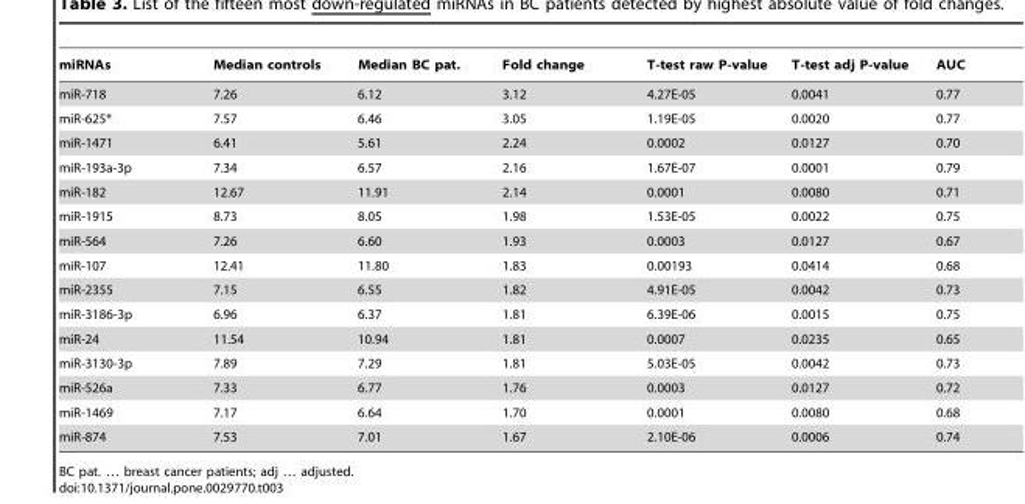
<table><thead><tr><td>miRNAs</td><td>Median controls</td><td>Median BC pat.</td><td>Fold change</td><td>T-test raw P-value</td><td>T-test adj P-value</td><td>AUC</td></tr></thead><tbody><tr><td>miR-718</td><td>7.26</td><td>6.12</td><td>3.12</td><td>4.27E-05</td><td>0.0041</td><td>0.77</td></tr><tr><td>miR-625*</td><td>7.57</td><td>6.46</td><td>3.05</td><td>1.19E-05</td><td>0.0020</td><td>0.77</td></tr><tr><td>miR-1471</td><td>6.41</td><td>5.61</td><td>2.24</td><td>0.0002</td><td>0.0127</td><td>0.70</td></tr><tr><td>miR-193a-3p</td><td>7.34</td><td>6.57</td><td>2.16</td><td>1.67E-07</td><td>0.0001</td><td>0.79</td></tr><tr><td>miR-182</td><td>12.67</td><td>11.91</td><td>2.14</td><td>0.0001</td><td>0.0080</td><td>0.71</td></tr><tr><td>miR-1915</td><td>8.73</td><td>8.05</td><td>1.98</td><td>1.53E-05</td><td>0.0022</td><td>0.75</td></tr><tr><td>miR-564</td><td>7.26</td><td>6.60</td><td>1.93</td><td>0.0003</td><td>0.0127</td><td>0.67</td></tr><tr><td>miR-107</td><td>12.41</td><td>11.80</td><td>1.83</td><td>0.00193</td><td>0.0414</td><td>0.68</td></tr><tr><td>miR-2355</td><td>7.15</td><td>6.55</td><td>1.82</td><td>4.91E-05</td><td>0.0042</td><td>0.73</td></tr><tr><td>miR-3186-3p</td><td>6.96</td><td>6.37</td><td>1.81</td><td>6.39E-06</td><td>0.0015</td><td>0.75</td></tr><tr><td>miR-24</td><td>11.54</td><td>10.94</td><td>1.81</td><td>0.0007</td><td>0.0235</td><td>0.65</td></tr><tr><td>miR-3130-3p</td><td>7.89</td><td>7.29</td><td>1.81</td><td>5.03E-05</td><td>0.0042</td><td>0.73</td></tr><tr><td>miR-526a</td><td>7.33</td><td>6.77</td><td>1.76</td><td>0.0003</td><td>0.0127</td><td>0.72</td></tr><tr><td>miR-1469</td><td>7.17</td><td>6.64</td><td>1.70</td><td>0.0001</td><td>0.0080</td><td>0.68</td></tr><tr><td>miR-874</td><td>7.53</td><td>7.01</td><td>1.67</td><td>2.10E-06</td><td>0.0006</td><td>0.74</td></tr></tbody></table>